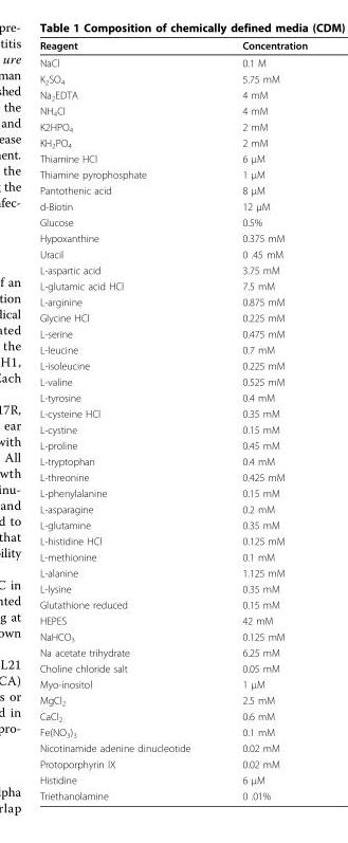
<table><thead><tr><td>Reagent</td><td>Concentration</td></tr></thead><tbody><tr><td>NaCl</td><td>0.1 M</td></tr><tr><td>K<sub>2</sub>SO<sub>4</sub></td><td>5.75 mM</td></tr><tr><td>Na<sub>2</sub>EDTA</td><td>4 mM</td></tr><tr><td>NH<sub>4</sub>Cl</td><td>4 mM</td></tr><tr><td>K2HPO<sub>4</sub></td><td>2 mM</td></tr><tr><td>KH<sub>2</sub>PO<sub>4</sub></td><td>2 mM</td></tr><tr><td>Thiamine HCl</td><td>6 μM</td></tr><tr><td>Thiamine pyrophosphate</td><td>1 μM</td></tr><tr><td>Pantothenic acid</td><td>8 μM</td></tr><tr><td>d-Biotin</td><td>12 μM</td></tr><tr><td>Glucose</td><td>0.5%</td></tr><tr><td>Hypoxanthine</td><td>0.375 mM</td></tr><tr><td>Uracil</td><td>0 .45 mM</td></tr><tr><td>L-aspartic acid</td><td>3.75 mM</td></tr><tr><td>L-glutamic acid HCl</td><td>7.5 mM</td></tr><tr><td>L-arginine</td><td>0.875 mM</td></tr><tr><td>Glycine HCl</td><td>0.225 mM</td></tr><tr><td>L-serine</td><td>0.475 mM</td></tr><tr><td>L-leucine</td><td>0.7 mM</td></tr><tr><td>L-isoleucine</td><td>0.225 mM</td></tr><tr><td>L-valine</td><td>0.525 mM</td></tr><tr><td>L-tyrosine</td><td>0.4 mM</td></tr><tr><td>L-cysteine HCl</td><td>0.35 mM</td></tr><tr><td>L-cystine</td><td>0.15 mM</td></tr><tr><td>L-proline</td><td>0.45 mM</td></tr><tr><td>L-tryptophan</td><td>0.4 mM</td></tr><tr><td>L-threonine</td><td>0.425 mM</td></tr><tr><td>L-phenylalanine</td><td>0.15 mM</td></tr><tr><td>L-asparagine</td><td>0.2 mM</td></tr><tr><td>L-glutamine</td><td>0.35 mM</td></tr><tr><td>L-histidine HCl</td><td>0.125 mM</td></tr><tr><td>L-methionine</td><td>0.1 mM</td></tr><tr><td>L-alanine</td><td>1.125 mM</td></tr><tr><td>L-lysine</td><td>0.35 mM</td></tr><tr><td>Glutathione reduced</td><td>0.15 mM</td></tr><tr><td>HEPES</td><td>42 mM</td></tr><tr><td>NaHCO<sub>3</sub></td><td>0.125 mM</td></tr><tr><td>Na acetate trihydrate</td><td>6.25 mM</td></tr><tr><td>Choline chloride salt</td><td>0.05 mM</td></tr><tr><td>Myo-inositol</td><td>1 μM</td></tr><tr><td>MgCl<sub>2</sub></td><td>2.5 mM</td></tr><tr><td>CaCl<sub>2</sub></td><td>0.6 mM</td></tr><tr><td>Fe(NO<sub>3</sub>)<sub>3</sub></td><td>0.1 mM</td></tr><tr><td>Nicotinamide adenine dinucleotide</td><td>0.02 mM</td></tr><tr><td>Protoporphyrin IX</td><td>0.02 mM</td></tr><tr><td>Histidine</td><td>6 μM</td></tr><tr><td>Triethanolamine</td><td>0 .01%</td></tr></tbody></table>